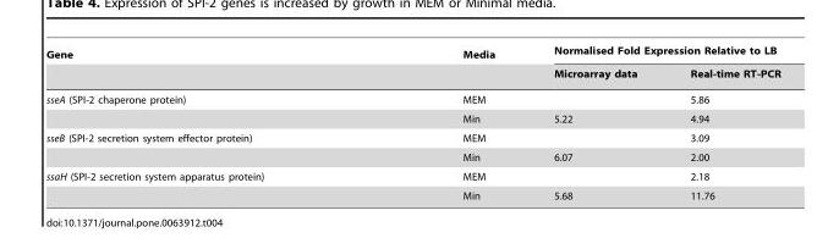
<table><thead><tr><td rowspan="2">Gene</td><td rowspan="2">Media</td><td colspan="2">Normalised Fold Expression Relative to LB</td></tr><tr><td>Microarray data</td><td>Real-time RT-PCR</td></tr></thead><tbody><tr><td rowspan="2">sseA (SPI-2 chaperone protein)</td><td>MEM</td><td></td><td>5.86</td></tr><tr><td>Min</td><td>5.22</td><td>4.94</td></tr><tr><td rowspan="2">sseB (SPI-2 secretion system effector protein)</td><td>MEM</td><td></td><td>3.09</td></tr><tr><td>Min</td><td>6.07</td><td>2.00</td></tr><tr><td rowspan="2">ssaH (SPI-2 secretion system apparatus protein)</td><td>MEM</td><td></td><td>2.18</td></tr><tr><td>Min</td><td>5.68</td><td>11.76</td></tr></tbody></table>